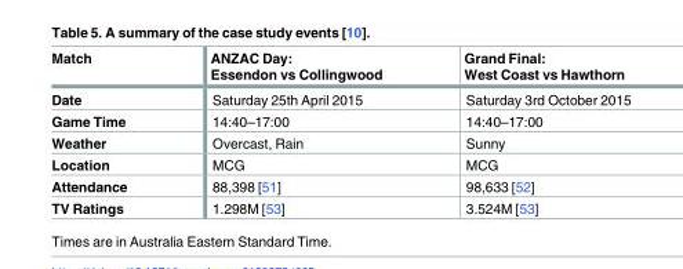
<table><thead><tr><td>Match</td><td>ANZAC Day: Essendon vs Collingwood</td><td>Grand Final: West Coast vs Hawthorn</td></tr></thead><tbody><tr><td>Date</td><td>Saturday 25th April 2015</td><td>Saturday 3rd October 2015</td></tr><tr><td>Game Time</td><td>14:40–17:00</td><td>14:40–17:00</td></tr><tr><td>Weather</td><td>Overcast, Rain</td><td>Sunny</td></tr><tr><td>Location</td><td>MCG</td><td>MCG</td></tr><tr><td>Attendance</td><td>88,398 [51]</td><td>98,633 [52]</td></tr><tr><td>TV Ratings</td><td>1.298M [53]</td><td>3.524M [53]</td></tr></tbody></table>